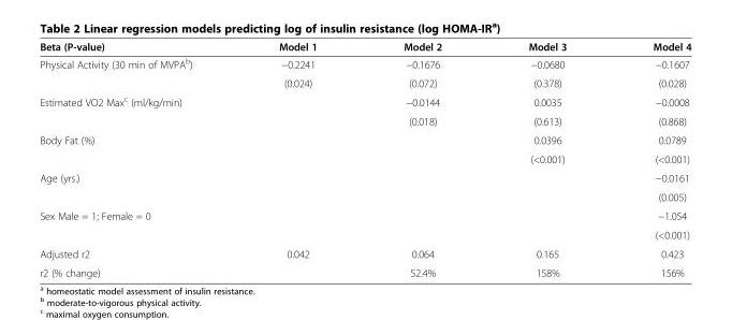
<table><thead><tr><td>Beta (P-value)</td><td>Model 1</td><td>Model 2</td><td>Model 3</td><td>Model 4</td></tr></thead><tbody><tr><td rowspan="2">Physical Activity (30 min of MVPA<sup>b</sup>)</td><td>−0.2241</td><td>−0.1676</td><td>−0.0680</td><td>−0.1607</td></tr><tr><td>(0.024)</td><td>(0.072)</td><td>(0.378)</td><td>(0.028)</td></tr><tr><td rowspan="2">Estimated VO2 Max<sup>c</sup> (ml/kg/min)</td><td></td><td>−0.0144</td><td>0.0035</td><td>−0.0008</td></tr><tr><td></td><td>(0.018)</td><td>(0.613)</td><td>(0.868)</td></tr><tr><td rowspan="2">Body Fat (%)</td><td></td><td></td><td>0.0396</td><td>0.0789</td></tr><tr><td></td><td></td><td>(&lt;0.001)</td><td>(&lt;0.001)</td></tr><tr><td rowspan="2">Age (yrs.)</td><td></td><td></td><td></td><td>−0.0161</td></tr><tr><td></td><td></td><td></td><td>(0.005)</td></tr><tr><td rowspan="2">Sex Male = 1; Female = 0</td><td></td><td></td><td></td><td>−1.054</td></tr><tr><td></td><td></td><td></td><td>(&lt;0.001)</td></tr><tr><td>Adjusted r2</td><td>0.042</td><td>0.064</td><td>0.165</td><td>0.423</td></tr><tr><td>r2 (% change)</td><td></td><td>52.4%</td><td>158%</td><td>156%</td></tr></tbody></table>